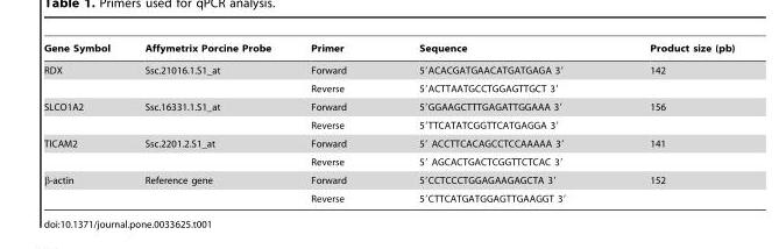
<table><thead><tr><td>Gene Symbol</td><td>Affymetrix Porcine Probe</td><td>Primer</td><td>Sequence</td><td>Product size (pb)</td></tr></thead><tbody><tr><td rowspan="2">RDX</td><td>Ssc.21016.1.S1_at</td><td>Forward</td><td>5′ACACGATGAACATGATGAGA 3′</td><td>142</td></tr><tr><td></td><td>Reverse</td><td>5′ACTTAATGCCTGGAGTTGCT 3′</td><td></td></tr><tr><td rowspan="2">SLCO1A2</td><td>Ssc.16331.1.S1_at</td><td>Forward</td><td>5′GGAAGCTTTGAGATTGGAAA 3′</td><td>156</td></tr><tr><td></td><td>Reverse</td><td>5′TTCATATCGGTTCATGAGGA 3′</td><td></td></tr><tr><td rowspan="2">TICAM2</td><td>Ssc.2201.2.S1_at</td><td>Forward</td><td>5′ ACCTTCACAGCCTCCAAAAA 3′</td><td>141</td></tr><tr><td></td><td>Reverse</td><td>5′ AGCACTGACTCGGTTCTCAC 3′</td><td></td></tr><tr><td rowspan="2">β-actin</td><td>Reference gene</td><td>Forward</td><td>5′CCTCCCTGGAGAAGAGCTA 3′</td><td>152</td></tr><tr><td></td><td>Reverse</td><td>5′CTTCATGATGGAGTTGAAGGT 3′</td><td></td></tr></tbody></table>